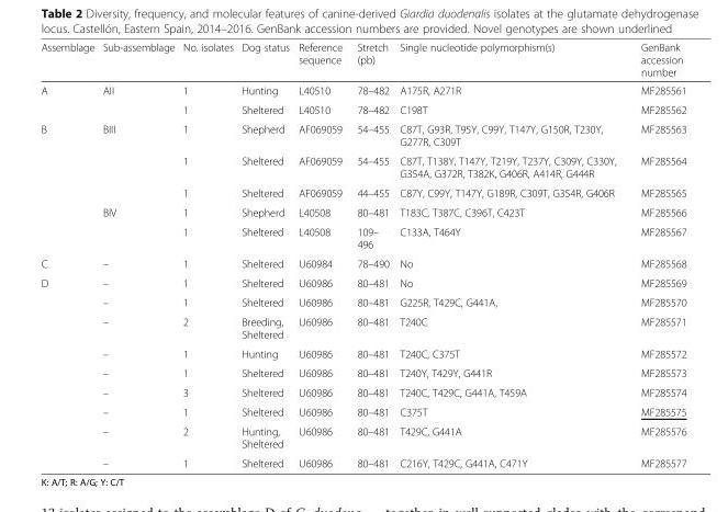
<table><thead><tr><td>Assemblage</td><td>Sub-assemblage</td><td>No. isolates</td><td>Dog status</td><td>Reference sequence</td><td>Stretch (pb)</td><td>Single nucleotide polymorphism(s)</td><td>GenBank accession number</td></tr></thead><tbody><tr><td rowspan="2">A</td><td rowspan="2">AII</td><td>1</td><td>Hunting</td><td>L40510</td><td>78–482</td><td>A175R, A271R</td><td>MF285561</td></tr><tr><td>1</td><td>Sheltered</td><td>L40510</td><td>78–482</td><td>C198T</td><td>MF285562</td></tr><tr><td rowspan="5">B</td><td rowspan="3">BIII</td><td>1</td><td>Shepherd</td><td>AF069059</td><td>54–455</td><td>C87T, G93R, T95Y, C99Y, T147Y, G150R, T230Y, G277R, C309T</td><td>MF285563</td></tr><tr><td>1</td><td>Sheltered</td><td>AF069059</td><td>54–455</td><td>C87T, T138Y, T147Y, T219Y, T237Y, C309Y, C330Y, G354A, G372R, T382K, G406R, A414R, G444R</td><td>MF285564</td></tr><tr><td>1</td><td>Sheltered</td><td>AF069059</td><td>44–455</td><td>C87Y, C99Y, T147Y, G189R, C309T, G354R, G406R</td><td>MF285565</td></tr><tr><td rowspan="2">BIV</td><td>1</td><td>Shepherd</td><td>L40508</td><td>80–481</td><td>T183C, T387C, C396T, C423T</td><td>MF285566</td></tr><tr><td>1</td><td>Sheltered</td><td>L40508</td><td>109– 496</td><td>C133A, T464Y</td><td>MF285567</td></tr><tr><td>C</td><td>–</td><td>1</td><td>Sheltered</td><td>U60984</td><td>78–490</td><td>No</td><td>MF285568</td></tr><tr><td rowspan="9">D</td><td>–</td><td>1</td><td>Sheltered</td><td>U60986</td><td>80–481</td><td>No</td><td>MF285569</td></tr><tr><td>–</td><td>1</td><td>Sheltered</td><td>U60986</td><td>80–481</td><td>G225R, T429C, G441A,</td><td>MF285570</td></tr><tr><td>–</td><td>2</td><td>Breeding, Sheltered</td><td>U60986</td><td>80–481</td><td>T240C</td><td>MF285571</td></tr><tr><td>–</td><td>1</td><td>Hunting</td><td>U60986</td><td>80–481</td><td>T240C, C375T</td><td>MF285572</td></tr><tr><td>–</td><td>1</td><td>Sheltered</td><td>U60986</td><td>80–481</td><td>T240Y, T429Y, G441R</td><td>MF285573</td></tr><tr><td>–</td><td>3</td><td>Sheltered</td><td>U60986</td><td>80–481</td><td>T240C, T429C, G441A, T459A</td><td>MF285574</td></tr><tr><td>–</td><td>1</td><td>Sheltered</td><td>U60986</td><td>80–481</td><td>C375T</td><td>MF285575</td></tr><tr><td>–</td><td>2</td><td>Hunting, Sheltered</td><td>U60986</td><td>80–481</td><td>T429C, G441A</td><td>MF285576</td></tr><tr><td>–</td><td>1</td><td>Sheltered</td><td>U60986</td><td>80–481</td><td>C216Y, T429C, G441A, C471Y</td><td>MF285577</td></tr></tbody></table>